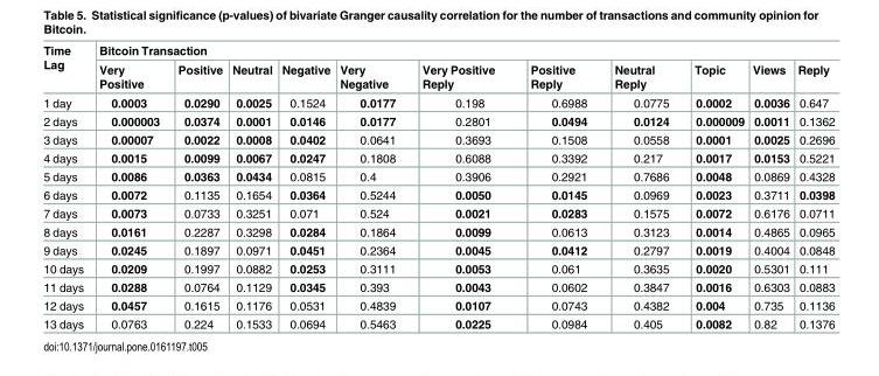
<table><thead><tr><td rowspan="2">Time Lag</td><td colspan="11">Bitcoin Transaction</td></tr><tr><td>Very Positive</td><td>Positive</td><td>Neutral</td><td>Negative</td><td>Very Negative</td><td>Very Positive Reply</td><td>Positive Reply</td><td>Neutral Reply</td><td>Topic</td><td>Views</td><td>Reply</td></tr></thead><tbody><tr><td>1 day</td><td>0.0003</td><td>0.0290</td><td>0.0025</td><td>0.1524</td><td>0.0177</td><td>0.198</td><td>0.6988</td><td>0.0775</td><td>0.0002</td><td>0.0036</td><td>0.647</td></tr><tr><td>2 days</td><td>0.000003</td><td>0.0374</td><td>0.0001</td><td>0.0146</td><td>0.0177</td><td>0.2801</td><td>0.0494</td><td>0.0124</td><td>0.000009</td><td>0.0011</td><td>0.1362</td></tr><tr><td>3 days</td><td>0.00007</td><td>0.0022</td><td>0.0008</td><td>0.0402</td><td>0.0641</td><td>0.3693</td><td>0.1508</td><td>0.0558</td><td>0.0001</td><td>0.0025</td><td>0.2696</td></tr><tr><td>4 days</td><td>0.0015</td><td>0.0099</td><td>0.0067</td><td>0.0247</td><td>0.1808</td><td>0.6088</td><td>0.3392</td><td>0.217</td><td>0.0017</td><td>0.0153</td><td>0.5221</td></tr><tr><td>5 days</td><td>0.0086</td><td>0.0363</td><td>0.0434</td><td>0.0815</td><td>0.4</td><td>0.3906</td><td>0.2921</td><td>0.7686</td><td>0.0048</td><td>0.0869</td><td>0.4328</td></tr><tr><td>6 days</td><td>0.0072</td><td>0.1135</td><td>0.1654</td><td>0.0364</td><td>0.5244</td><td>0.0050</td><td>0.0145</td><td>0.0969</td><td>0.0023</td><td>0.3711</td><td>0.0398</td></tr><tr><td>7 days</td><td>0.0073</td><td>0.0733</td><td>0.3251</td><td>0.071</td><td>0.524</td><td>0.0021</td><td>0.0283</td><td>0.1575</td><td>0.0072</td><td>0.6176</td><td>0.0711</td></tr><tr><td>8 days</td><td>0.0161</td><td>0.2287</td><td>0.3298</td><td>0.0284</td><td>0.1864</td><td>0.0099</td><td>0.0613</td><td>0.3123</td><td>0.0014</td><td>0.4865</td><td>0.0965</td></tr><tr><td>9 days</td><td>0.0245</td><td>0.1897</td><td>0.0971</td><td>0.0451</td><td>0.2364</td><td>0.0045</td><td>0.0412</td><td>0.2797</td><td>0.0019</td><td>0.4004</td><td>0.0848</td></tr><tr><td>10 days</td><td>0.0209</td><td>0.1997</td><td>0.0882</td><td>0.0253</td><td>0.3111</td><td>0.0053</td><td>0.061</td><td>0.3635</td><td>0.0020</td><td>0.5301</td><td>0.111</td></tr><tr><td>11 days</td><td>0.0288</td><td>0.0764</td><td>0.1129</td><td>0.0345</td><td>0.393</td><td>0.0043</td><td>0.0602</td><td>0.3847</td><td>0.0016</td><td>0.6303</td><td>0.0883</td></tr><tr><td>12 days</td><td>0.0457</td><td>0.1615</td><td>0.1176</td><td>0.0531</td><td>0.4839</td><td>0.0107</td><td>0.0743</td><td>0.4382</td><td>0.004</td><td>0.735</td><td>0.1136</td></tr><tr><td>13 days</td><td>0.0763</td><td>0.224</td><td>0.1533</td><td>0.0694</td><td>0.5463</td><td>0.0225</td><td>0.0984</td><td>0.405</td><td>0.0082</td><td>0.82</td><td>0.1376</td></tr></tbody></table>